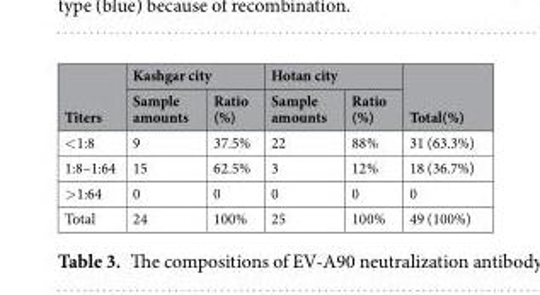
<table><thead><tr><td rowspan="2">Titers</td><td colspan="2">Kashgar city</td><td colspan="2">Hotan city</td><td rowspan="2">Total(%)</td></tr><tr><td>Sample amounts</td><td>Ratio (%)</td><td>Sample amounts</td><td>Ratio (%)</td></tr></thead><tbody><tr><td>&lt;1:8</td><td>9</td><td>37.5%</td><td>22</td><td>88%</td><td>31 (63.3%)</td></tr><tr><td>1:8–1:64</td><td>15</td><td>62.5%</td><td>3</td><td>12%</td><td>18 (36.7%)</td></tr><tr><td>&gt;1:64</td><td>0</td><td>0</td><td>0</td><td>0</td><td>0</td></tr><tr><td>Total</td><td>24</td><td>100%</td><td>25</td><td>100%</td><td>49 (100%)</td></tr></tbody></table>